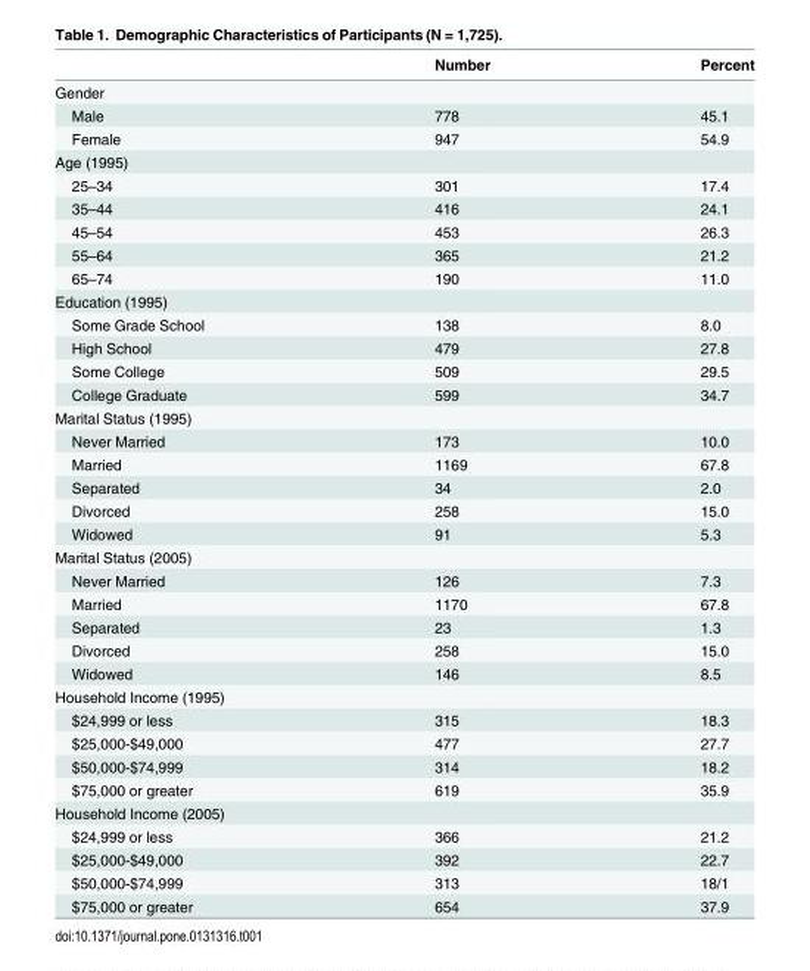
<table><thead><tr><td></td><td>Number</td><td>Percent</td></tr></thead><tbody><tr><td colspan="3">Gender</td></tr><tr><td>Male</td><td>778</td><td>45.1</td></tr><tr><td>Female</td><td>947</td><td>54.9</td></tr><tr><td colspan="3">Age (1995)</td></tr><tr><td>25–34</td><td>301</td><td>17.4</td></tr><tr><td>35–44</td><td>416</td><td>24.1</td></tr><tr><td>45–54</td><td>453</td><td>26.3</td></tr><tr><td>55–64</td><td>365</td><td>21.2</td></tr><tr><td>65–74</td><td>190</td><td>11.0</td></tr><tr><td colspan="3">Education (1995)</td></tr><tr><td>Some Grade School</td><td>138</td><td>8.0</td></tr><tr><td>High School</td><td>479</td><td>27.8</td></tr><tr><td>Some College</td><td>509</td><td>29.5</td></tr><tr><td>College Graduate</td><td>599</td><td>34.7</td></tr><tr><td colspan="3">Marital Status (1995)</td></tr><tr><td>Never Married</td><td>173</td><td>10.0</td></tr><tr><td>Married</td><td>1169</td><td>67.8</td></tr><tr><td>Separated</td><td>34</td><td>2.0</td></tr><tr><td>Divorced</td><td>258</td><td>15.0</td></tr><tr><td>Widowed</td><td>91</td><td>5.3</td></tr><tr><td colspan="3">Marital Status (2005)</td></tr><tr><td>Never Married</td><td>126</td><td>7.3</td></tr><tr><td>Married</td><td>1170</td><td>67.8</td></tr><tr><td>Separated</td><td>23</td><td>1.3</td></tr><tr><td>Divorced</td><td>258</td><td>15.0</td></tr><tr><td>Widowed</td><td>146</td><td>8.5</td></tr><tr><td colspan="3">Household Income (1995)</td></tr><tr><td>$24,999 or less</td><td>315</td><td>18.3</td></tr><tr><td>$25,000-$49,000</td><td>477</td><td>27.7</td></tr><tr><td>$50,000-$74,999</td><td>314</td><td>18.2</td></tr><tr><td>$75,000 or greater</td><td>619</td><td>35.9</td></tr><tr><td colspan="3">Household Income (2005)</td></tr><tr><td>$24,999 or less</td><td>366</td><td>21.2</td></tr><tr><td>$25,000-$49,000</td><td>392</td><td>22.7</td></tr><tr><td>$50,000-$74,999</td><td>313</td><td>18/1</td></tr><tr><td>$75,000 or greater</td><td>654</td><td>37.9</td></tr></tbody></table>